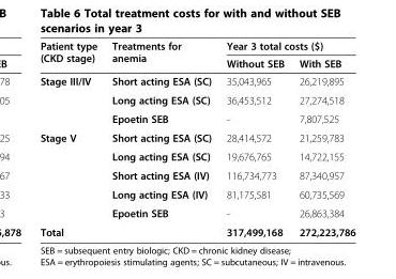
<table><thead><tr><td rowspan="2">Patient type (CKD stage)</td><td rowspan="2">Treatments for anemia</td><td colspan="2">Year 3 total costs ($)</td></tr><tr><td>Without SEB</td><td>With SEB</td></tr></thead><tbody><tr><td rowspan="3">Stage III/IV</td><td>Short acting ESA (SC)</td><td>35,043,965</td><td>26,219,895</td></tr><tr><td>Long acting ESA (SC)</td><td>36,453,512</td><td>27,274,518</td></tr><tr><td>Epoetin SEB</td><td>-</td><td>7,807,525</td></tr><tr><td rowspan="5">Stage V</td><td>Short acting ESA (SC)</td><td>28,414,572</td><td>21,259,783</td></tr><tr><td>Long acting ESA (SC)</td><td>19,676,765</td><td>14,722,155</td></tr><tr><td>Short acting ESA (IV)</td><td>116,734,773</td><td>87,340,957</td></tr><tr><td>Long acting ESA (IV)</td><td>81,175,581</td><td>60,735,569</td></tr><tr><td>Epoetin SEB</td><td>-</td><td>26,863,384</td></tr><tr><td colspan="2">Total</td><td>317,499,168</td><td>272,223,786</td></tr></tbody></table>